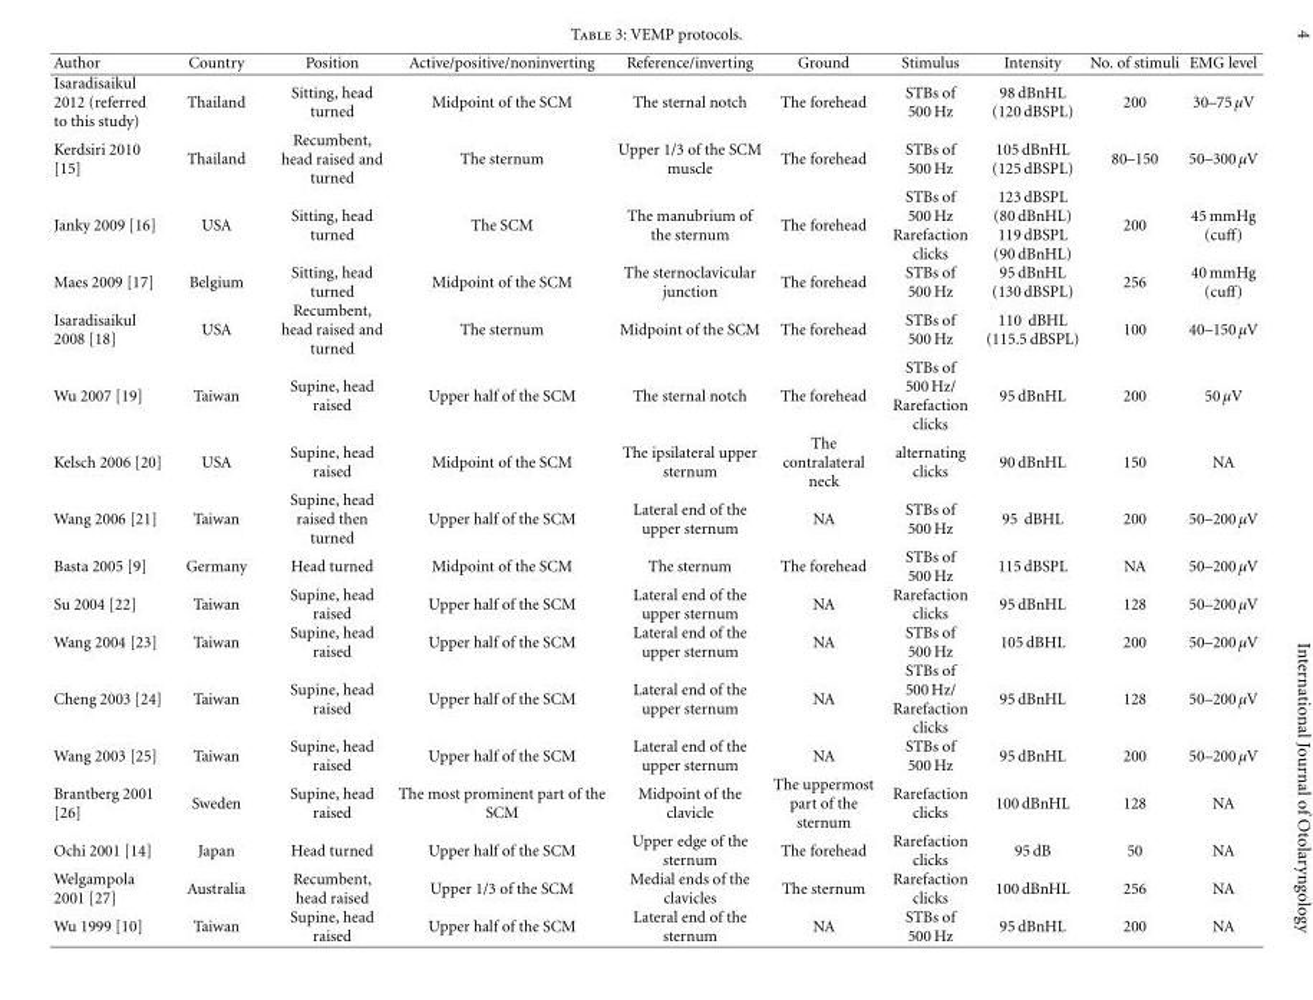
<table><thead><tr><td>Author</td><td>Country</td><td>Position</td><td>Active/positive/noninverting</td><td>Reference/inverting</td><td>Ground</td><td>Stimulus</td><td>Intensity</td><td>No. of stimuli</td><td>EMG level</td></tr></thead><tbody><tr><td>Isaradisaikul 2012 (referred to this study)</td><td>Thailand</td><td>Sitting, head turned</td><td>Midpoint of the SCM</td><td>The sternal notch</td><td>The forehead</td><td>STBs of 500 Hz</td><td>98 dBnHL (120 dBSPL)</td><td>200</td><td>30–75 µV</td></tr><tr><td>Kerdsiri 2010 [15]</td><td>Thailand</td><td>Recumbent, head raised and turned</td><td>The sternum</td><td>Upper 1/3 of the SCM muscle</td><td>The forehead</td><td>STBs of 500 Hz</td><td>105 dBnHL (125 dBSPL)</td><td>80–150</td><td>50–300 µV</td></tr><tr><td>Janky 2009 [16]</td><td>USA</td><td>Sitting, head turned</td><td>The SCM</td><td>The manubrium of the sternum</td><td>The forehead</td><td>STBs of 500 Hz Rarefaction clicks</td><td>123 dBSPL (80 dBnHL) 119 dBSPL (90 dBnHL)</td><td>200</td><td>45 mmHg (cuff)</td></tr><tr><td>Maes 2009 [17]</td><td>Belgium</td><td>Sitting, head turned</td><td>Midpoint of the SCM</td><td>The sternoclavicular junction</td><td>The forehead</td><td>STBs of 500 Hz</td><td>95 dBnHL (130 dBSPL)</td><td>256</td><td>40 mmHg (cuff)</td></tr><tr><td>Isaradisaikul 2008 [18]</td><td>USA</td><td>Recumbent, head raised and turned</td><td>The sternum</td><td>Midpoint of the SCM</td><td>The forehead</td><td>STBs of 500 Hz</td><td>110 dBHL (115.5 dBSPL)</td><td>100</td><td>40–150 µV</td></tr><tr><td>Wu 2007 [19]</td><td>Taiwan</td><td>Supine, head raised</td><td>Upper half of the SCM</td><td>The sternal notch</td><td>The forehead</td><td>STBs of 500 Hz/ Rarefaction clicks</td><td>95 dBnHL</td><td>200</td><td>50 µV</td></tr><tr><td>Kelsch 2006 [20]</td><td>USA</td><td>Supine, head raised</td><td>Midpoint of the SCM</td><td>The ipsilateral upper sternum</td><td>The contralateral neck</td><td>alternating clicks</td><td>90 dBnHL</td><td>150</td><td>NA</td></tr><tr><td>Wang 2006 [21]</td><td>Taiwan</td><td>Supine, head raised then turned</td><td>Upper half of the SCM</td><td>Lateral end of the upper sternum</td><td>NA</td><td>STBs of 500 Hz</td><td>95 dBHL</td><td>200</td><td>50–200 µV</td></tr><tr><td>Basta 2005 [9]</td><td>Germany</td><td>Head turned</td><td>Midpoint of the SCM</td><td>The sternum</td><td>The forehead</td><td>STBs of 500 Hz</td><td>115 dBSPL</td><td>NA</td><td>50–200 µV</td></tr><tr><td>Su 2004 [22]</td><td>Taiwan</td><td>Supine, head raised</td><td>Upper half of the SCM</td><td>Lateral end of the upper sternum</td><td>NA</td><td>Rarefaction clicks</td><td>95 dBnHL</td><td>128</td><td>50–200 µV</td></tr><tr><td>Wang 2004 [23]</td><td>Taiwan</td><td>Supine, head raised</td><td>Upper half of the SCM</td><td>Lateral end of the upper sternum</td><td>NA</td><td>STBs of 500 Hz</td><td>105 dBHL</td><td>200</td><td>50–200 µV</td></tr><tr><td>Cheng 2003 [24]</td><td>Taiwan</td><td>Supine, head raised</td><td>Upper half of the SCM</td><td>Lateral end of the upper sternum</td><td>NA</td><td>STBs of 500 Hz/ Rarefaction clicks</td><td>95 dBnHL</td><td>128</td><td>50–200 µV</td></tr><tr><td>Wang 2003 [25]</td><td>Taiwan</td><td>Supine, head raised</td><td>Upper half of the SCM</td><td>Lateral end of the upper sternum</td><td>NA</td><td>STBs of 500 Hz</td><td>95 dBnHL</td><td>200</td><td>50–200 µV</td></tr><tr><td>Brantberg 2001 [26]</td><td>Sweden</td><td>Supine, head raised</td><td>The most prominent part of the SCM</td><td>Midpoint of the clavicle</td><td>The uppermost part of the sternum</td><td>Rarefaction clicks</td><td>100 dBnHL</td><td>128</td><td>NA</td></tr><tr><td>Ochi 2001 [14]</td><td>Japan</td><td>Head turned</td><td>Upper half of the SCM</td><td>Upper edge of the sternum</td><td>The forehead</td><td>Rarefaction clicks</td><td>95 dB</td><td>50</td><td>NA</td></tr><tr><td>Welgampola 2001 [27]</td><td>Australia</td><td>Recumbent, head raised</td><td>Upper 1/3 of the SCM</td><td>Medial ends of the clavicles</td><td>The sternum</td><td>Rarefaction clicks</td><td>100 dBnHL</td><td>256</td><td>NA</td></tr><tr><td>Wu 1999 [10]</td><td>Taiwan</td><td>Supine, head raised</td><td>Upper half of the SCM</td><td>Lateral end of the sternum</td><td>NA</td><td>STBs of 500 Hz</td><td>95 dBnHL</td><td>200</td><td>NA</td></tr></tbody></table>